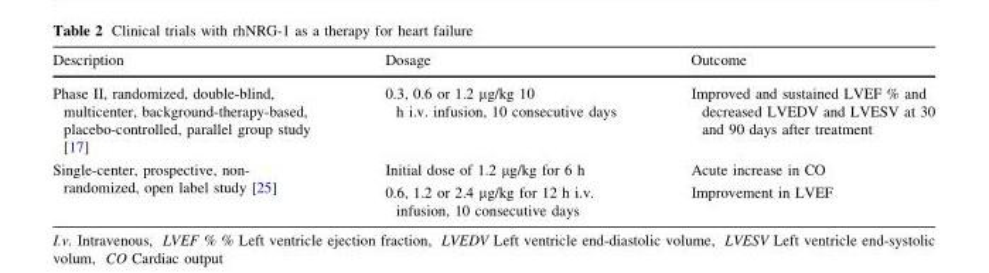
<table><thead><tr><td>Description</td><td>Dosage</td><td>Outcome</td></tr></thead><tbody><tr><td>Phase II, randomized, double-blind, multicenter, background-therapy-based, placebo-controlled, parallel group study [17]</td><td>0.3, 0.6 or 1.2 μg/kg 10 h i.v. infusion, 10 consecutive days</td><td>Improved and sustained LVEF % and decreased LVEDV and LVESV at 30 and 90 days after treatment</td></tr><tr><td>Single-center, prospective, non- randomized, open label study [25]</td><td>Initial dose of 1.2 μg/kg for 6 h 0.6, 1.2 or 2.4 μg/kg for 12 h i.v. infusion, 10 consecutive days</td><td>Acute increase in CO Improvement in LVEF</td></tr></tbody></table>